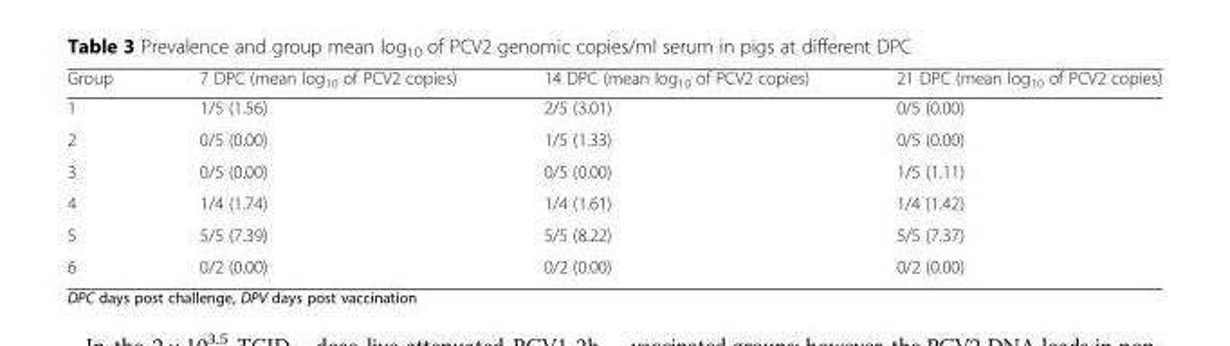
<table><thead><tr><td>Group</td><td>7 DPC (mean log<sub>10</sub> of PCV2 copies)</td><td>14 DPC (mean log<sub>10</sub> of PCV2 copies)</td><td>21 DPC (mean log<sub>10</sub> of PCV2 copies)</td></tr></thead><tbody><tr><td>1</td><td>1/5 (1.56)</td><td>2/5 (3.01)</td><td>0/5 (0.00)</td></tr><tr><td>2</td><td>0/5 (0.00)</td><td>1/5 (1.33)</td><td>0/5 (0.00)</td></tr><tr><td>3</td><td>0/5 (0.00)</td><td>0/5 (0.00)</td><td>1/5 (1.11)</td></tr><tr><td>4</td><td>1/4 (1.74)</td><td>1/4 (1.61)</td><td>1/4 (1.42)</td></tr><tr><td>5</td><td>5/5 (7.39)</td><td>5/5 (8.22)</td><td>5/5 (7.37)</td></tr><tr><td>6</td><td>0/2 (0.00)</td><td>0/2 (0.00)</td><td>0/2 (0.00)</td></tr></tbody></table>